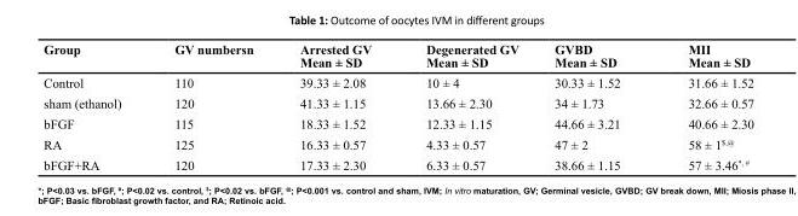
<table><thead><tr><td>Group</td><td>GV numbersn</td><td>Arrested GV Mean ± SD</td><td>Degenerated GV Mean ± SD</td><td>GVBD Mean ± SD</td><td>MII Mean ± SD</td></tr></thead><tbody><tr><td>Control</td><td>110</td><td>39.33 ± 2.08</td><td>10 ± 4</td><td>30.33 ± 1.52</td><td>31.66 ± 1.52</td></tr><tr><td>sham (ethanol)</td><td>120</td><td>41.33 ± 1.15</td><td>13.66 ± 2.30</td><td>34 ± 1.73</td><td>32.66 ± 0.57</td></tr><tr><td>bFGF</td><td>115</td><td>18.33 ± 1.52</td><td>12.33 ± 1.15</td><td>44.66 ± 3.21</td><td>40.66 ± 2.30</td></tr><tr><td>RA</td><td>125</td><td>16.33 ± 0.57</td><td>4.33 ± 0.57</td><td>47 ± 2</td><td>58 ± 1<sup>$,@</sup></td></tr><tr><td>bFGF+RA</td><td>120</td><td>17.33 ± 2.30</td><td>6.33 ± 0.57</td><td>38.66 ± 1.15</td><td>57 ± 3.46<sup>*, #</sup></td></tr></tbody></table>